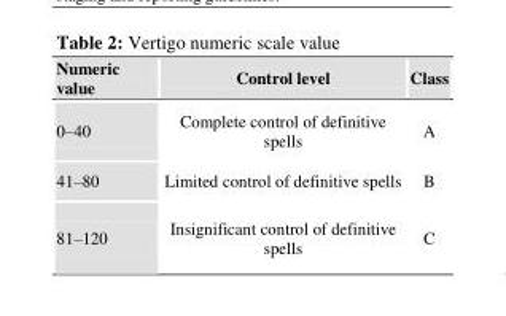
<table><thead><tr><td>Numeric value</td><td>Control level</td><td>Class</td></tr></thead><tbody><tr><td>0–40</td><td>Complete control of definitive spells</td><td>A</td></tr><tr><td>41–80</td><td>Limited control of definitive spells</td><td>B</td></tr><tr><td>81–120</td><td>Insignificant control of definitive spells</td><td>C</td></tr></tbody></table>